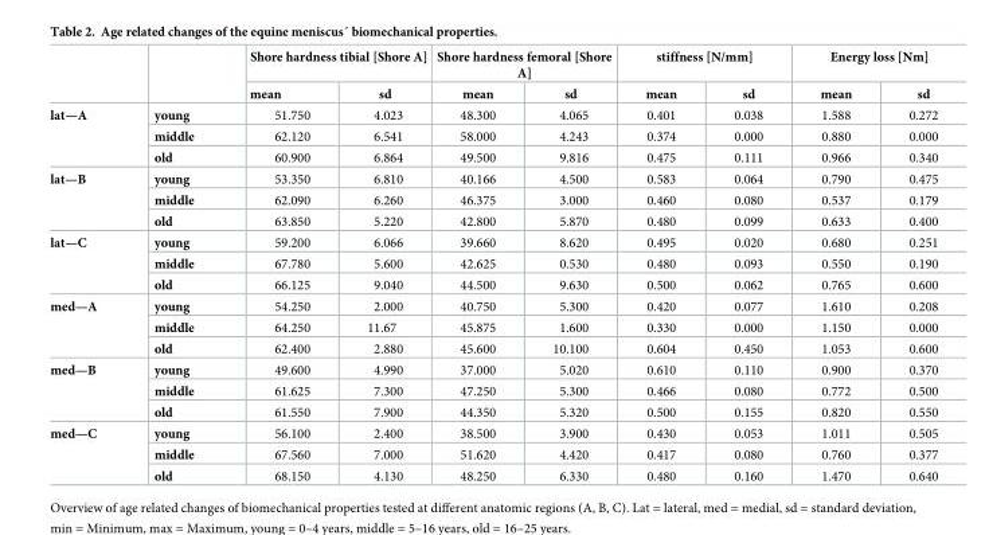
<table><thead><tr><td rowspan="2"></td><td rowspan="2"></td><td colspan="2">Shore hardness tibial [Shore A]</td><td colspan="2">Shore hardness femoral [Shore A]</td><td colspan="2">stiffness [N/mm]</td><td colspan="2">Energy loss [Nm]</td></tr><tr><td>mean</td><td>sd</td><td>mean</td><td>sd</td><td>mean</td><td>sd</td><td>mean</td><td>sd</td></tr></thead><tbody><tr><td rowspan="3">lat—A</td><td>young</td><td>51.750</td><td>4.023</td><td>48.300</td><td>4.065</td><td>0.401</td><td>0.038</td><td>1.588</td><td>0.272</td></tr><tr><td>middle</td><td>62.120</td><td>6.541</td><td>58.000</td><td>4.243</td><td>0.374</td><td>0.000</td><td>0.880</td><td>0.000</td></tr><tr><td>old</td><td>60.900</td><td>6.864</td><td>49.500</td><td>9.816</td><td>0.475</td><td>0.111</td><td>0.966</td><td>0.340</td></tr><tr><td rowspan="3">lat—B</td><td>young</td><td>53.350</td><td>6.810</td><td>40.166</td><td>4.500</td><td>0.583</td><td>0.064</td><td>0.790</td><td>0.475</td></tr><tr><td>middle</td><td>62.090</td><td>6.260</td><td>46.375</td><td>3.000</td><td>0.460</td><td>0.080</td><td>0.537</td><td>0.179</td></tr><tr><td>old</td><td>63.850</td><td>5.220</td><td>42.800</td><td>5.870</td><td>0.480</td><td>0.099</td><td>0.633</td><td>0.400</td></tr><tr><td rowspan="3">lat—C</td><td>young</td><td>59.200</td><td>6.066</td><td>39.660</td><td>8.620</td><td>0.495</td><td>0.020</td><td>0.680</td><td>0.251</td></tr><tr><td>middle</td><td>67.780</td><td>5.600</td><td>42.625</td><td>0.530</td><td>0.480</td><td>0.093</td><td>0.550</td><td>0.190</td></tr><tr><td>old</td><td>66.125</td><td>9.040</td><td>44.500</td><td>9.630</td><td>0.500</td><td>0.062</td><td>0.765</td><td>0.600</td></tr><tr><td rowspan="3">med—A</td><td>young</td><td>54.250</td><td>2.000</td><td>40.750</td><td>5.300</td><td>0.420</td><td>0.077</td><td>1.610</td><td>0.208</td></tr><tr><td>middle</td><td>64.250</td><td>11.67</td><td>45.875</td><td>1.600</td><td>0.330</td><td>0.000</td><td>1.150</td><td>0.000</td></tr><tr><td>old</td><td>62.400</td><td>2.880</td><td>45.600</td><td>10.100</td><td>0.604</td><td>0.450</td><td>1.053</td><td>0.600</td></tr><tr><td rowspan="3">med—B</td><td>young</td><td>49.600</td><td>4.990</td><td>37.000</td><td>5.020</td><td>0.610</td><td>0.110</td><td>0.900</td><td>0.370</td></tr><tr><td>middle</td><td>61.625</td><td>7.300</td><td>47.250</td><td>5.300</td><td>0.466</td><td>0.080</td><td>0.772</td><td>0.500</td></tr><tr><td>old</td><td>61.550</td><td>7.900</td><td>44.350</td><td>5.320</td><td>0.500</td><td>0.155</td><td>0.820</td><td>0.550</td></tr><tr><td rowspan="3">med—C</td><td>young</td><td>56.100</td><td>2.400</td><td>38.500</td><td>3.900</td><td>0.430</td><td>0.053</td><td>1.011</td><td>0.505</td></tr><tr><td>middle</td><td>67.560</td><td>7.000</td><td>51.620</td><td>4.420</td><td>0.417</td><td>0.080</td><td>0.760</td><td>0.377</td></tr><tr><td>old</td><td>68.150</td><td>4.130</td><td>48.250</td><td>6.330</td><td>0.480</td><td>0.160</td><td>1.470</td><td>0.640</td></tr></tbody></table>